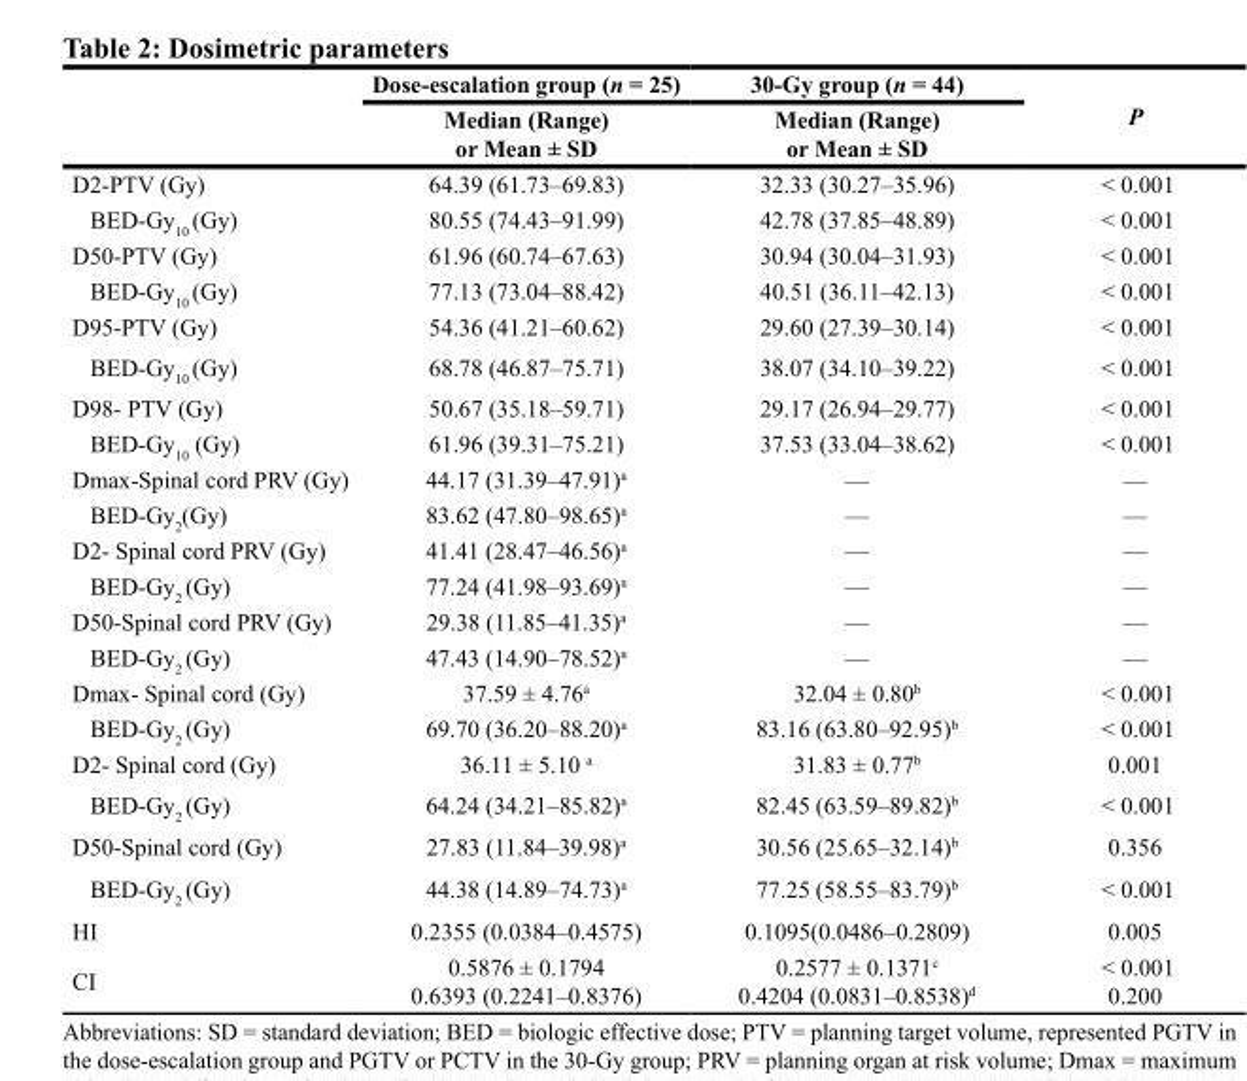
<table><thead><tr><td rowspan="2"></td><td rowspan="2">Dose-escalation group (n = 25) Median (Range) or Mean ± SD</td><td rowspan="2">30-Gy group (n = 44) Median (Range) or Mean ± SD</td><td rowspan="2">P</td></tr><tr></tr></thead><tbody><tr><td>D2-PTV (Gy)</td><td>64.39 (61.73–69.83)</td><td>32.33 (30.27–35.96)</td><td>&lt; 0.001</td></tr><tr><td>BED-Gy<sub>10</sub> (Gy)</td><td>80.55 (74.43–91.99)</td><td>42.78 (37.85–48.89)</td><td>&lt; 0.001</td></tr><tr><td>D50-PTV (Gy)</td><td>61.96 (60.74–67.63)</td><td>30.94 (30.04–31.93)</td><td>&lt; 0.001</td></tr><tr><td>BED-Gy<sub>10</sub> (Gy)</td><td>77.13 (73.04–88.42)</td><td>40.51 (36.11–42.13)</td><td>&lt; 0.001</td></tr><tr><td>D95-PTV (Gy)</td><td>54.36 (41.21–60.62)</td><td>29.60 (27.39–30.14)</td><td>&lt; 0.001</td></tr><tr><td>BED-Gy<sub>10</sub> (Gy)</td><td>68.78 (46.87–75.71)</td><td>38.07 (34.10–39.22)</td><td>&lt; 0.001</td></tr><tr><td>D98- PTV (Gy)</td><td>50.67 (35.18–59.71)</td><td>29.17 (26.94–29.77)</td><td>&lt; 0.001</td></tr><tr><td>BED-Gy<sub>10</sub> (Gy)</td><td>61.96 (39.31–75.21)</td><td>37.53 (33.04–38.62)</td><td>&lt; 0.001</td></tr><tr><td>Dmax-Spinal cord PRV (Gy)</td><td>44.17 (31.39–47.91)<sup>a</sup></td><td>—</td><td>—</td></tr><tr><td>BED-Gy<sub>2</sub>(Gy)</td><td>83.62 (47.80–98.65)<sup>a</sup></td><td>—</td><td>—</td></tr><tr><td>D2- Spinal cord PRV (Gy)</td><td>41.41 (28.47–46.56)<sup>a</sup></td><td>—</td><td>—</td></tr><tr><td>BED-Gy<sub>2</sub> (Gy)</td><td>77.24 (41.98–93.69)<sup>a</sup></td><td>—</td><td>—</td></tr><tr><td>D50-Spinal cord PRV (Gy)</td><td>29.38 (11.85–41.35)<sup>a</sup></td><td>—</td><td>—</td></tr><tr><td>BED-Gy<sub>2</sub> (Gy)</td><td>47.43 (14.90–78.52)<sup>a</sup></td><td>—</td><td>—</td></tr><tr><td>Dmax- Spinal cord (Gy)</td><td>37.59 ± 4.76<sup>a</sup></td><td>32.04 ± 0.80<sup>b</sup></td><td>&lt; 0.001</td></tr><tr><td>BED-Gy<sub>2</sub> (Gy)</td><td>69.70 (36.20–88.20)<sup>a</sup></td><td>83.16 (63.80–92.95)<sup>b</sup></td><td>&lt; 0.001</td></tr><tr><td>D2- Spinal cord (Gy)</td><td>36.11 ± 5.10 <sup>a</sup></td><td>31.83 ± 0.77<sup>b</sup></td><td>0.001</td></tr><tr><td>BED-Gy<sub>2</sub> (Gy)</td><td>64.24 (34.21–85.82)<sup>a</sup></td><td>82.45 (63.59–89.82)<sup>b</sup></td><td>&lt; 0.001</td></tr><tr><td>D50-Spinal cord (Gy)</td><td>27.83 (11.84–39.98)<sup>a</sup></td><td>30.56 (25.65–32.14)<sup>b</sup></td><td>0.356</td></tr><tr><td>BED-Gy<sub>2</sub> (Gy)</td><td>44.38 (14.89–74.73)<sup>a</sup></td><td>77.25 (58.55–83.79)<sup>b</sup></td><td>&lt; 0.001</td></tr><tr><td>HI</td><td>0.2355 (0.0384–0.4575)</td><td>0.1095(0.0486–0.2809)</td><td>0.005</td></tr><tr><td>CI</td><td>0.5876 ± 0.1794 0.6393 (0.2241–0.8376)</td><td>0.2577 ± 0.1371<sup>c</sup> 0.4204 (0.0831–0.8538)<sup>d</sup></td><td>&lt; 0.001 0.200</td></tr></tbody></table>